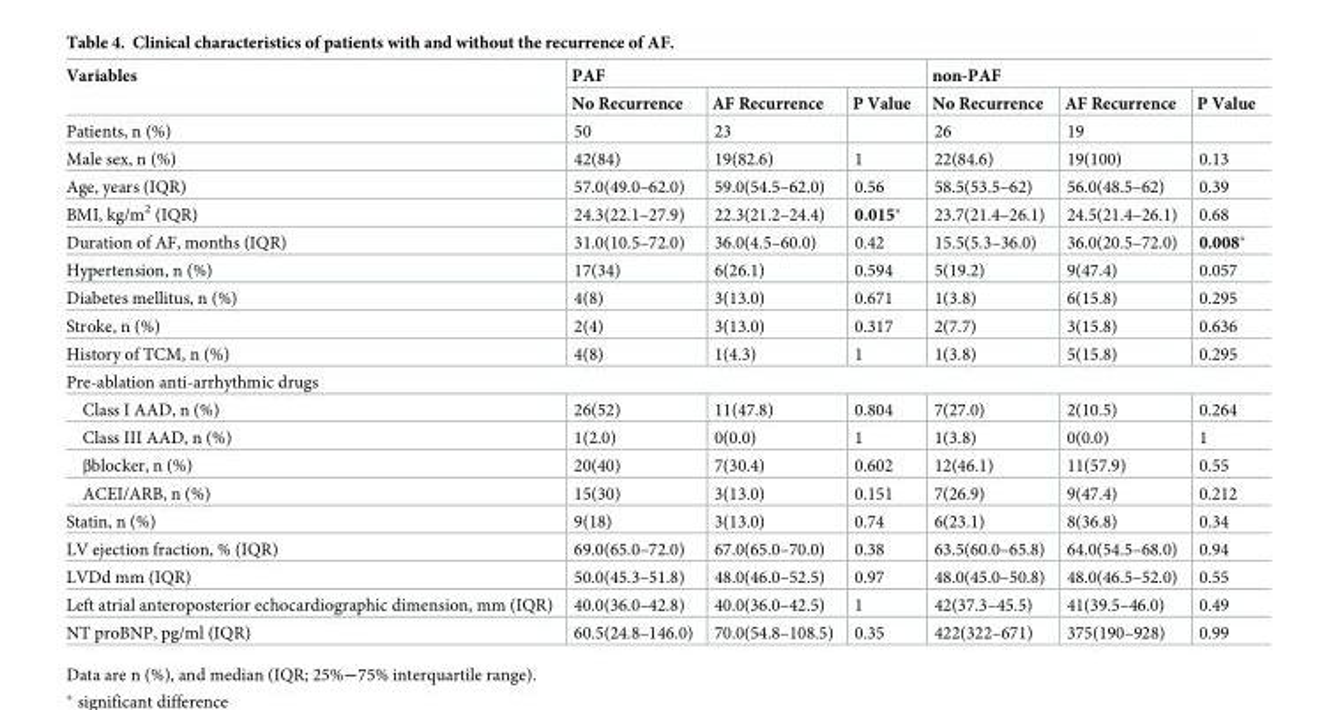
<table><thead><tr><td rowspan="2">Variables</td><td colspan="3">PAF</td><td colspan="3">non-PAF</td></tr><tr><td>No Recurrence</td><td>AF Recurrence</td><td>P Value</td><td>No Recurrence</td><td>AF Recurrence</td><td>P Value</td></tr></thead><tbody><tr><td>Patients, n (%)</td><td>50</td><td>23</td><td></td><td>26</td><td>19</td><td></td></tr><tr><td>Male sex, n (%)</td><td>42(84)</td><td>19(82.6)</td><td>1</td><td>22(84.6)</td><td>19(100)</td><td>0.13</td></tr><tr><td>Age, years (IQR)</td><td>57.0(49.0–62.0)</td><td>59.0(54.5–62.0)</td><td>0.56</td><td>58.5(53.5–62)</td><td>56.0(48.5–62)</td><td>0.39</td></tr><tr><td>BMI, kg/m<sup>2</sup> (IQR)</td><td>24.3(22.1–27.9)</td><td>22.3(21.2–24.4)</td><td>0.015*</td><td>23.7(21.4–26.1)</td><td>24.5(21.4–26.1)</td><td>0.68</td></tr><tr><td>Duration of AF, months (IQR)</td><td>31.0(10.5–72.0)</td><td>36.0(4.5–60.0)</td><td>0.42</td><td>15.5(5.3–36.0)</td><td>36.0(20.5–72.0)</td><td>0.008*</td></tr><tr><td>Hypertension, n (%)</td><td>17(34)</td><td>6(26.1)</td><td>0.594</td><td>5(19.2)</td><td>9(47.4)</td><td>0.057</td></tr><tr><td>Diabetes mellitus, n (%)</td><td>4(8)</td><td>3(13.0)</td><td>0.671</td><td>1(3.8)</td><td>6(15.8)</td><td>0.295</td></tr><tr><td>Stroke, n (%)</td><td>2(4)</td><td>3(13.0)</td><td>0.317</td><td>2(7.7)</td><td>3(15.8)</td><td>0.636</td></tr><tr><td>History of TCM, n (%)</td><td>4(8)</td><td>1(4.3)</td><td>1</td><td>1(3.8)</td><td>5(15.8)</td><td>0.295</td></tr><tr><td colspan="7">Pre-ablation anti-arrhythmic drugs</td></tr><tr><td>Class I AAD, n (%)</td><td>26(52)</td><td>11(47.8)</td><td>0.804</td><td>7(27.0)</td><td>2(10.5)</td><td>0.264</td></tr><tr><td>Class III AAD, n (%)</td><td>1(2.0)</td><td>0(0.0)</td><td>1</td><td>1(3.8)</td><td>0(0.0)</td><td>1</td></tr><tr><td>βblocker, n (%)</td><td>20(40)</td><td>7(30.4)</td><td>0.602</td><td>12(46.1)</td><td>11(57.9)</td><td>0.55</td></tr><tr><td>ACEI/ARB, n (%)</td><td>15(30)</td><td>3(13.0)</td><td>0.151</td><td>7(26.9)</td><td>9(47.4)</td><td>0.212</td></tr><tr><td>Statin, n (%)</td><td>9(18)</td><td>3(13.0)</td><td>0.74</td><td>6(23.1)</td><td>8(36.8)</td><td>0.34</td></tr><tr><td>LV ejection fraction, % (IQR)</td><td>69.0(65.0–72.0)</td><td>67.0(65.0–70.0)</td><td>0.38</td><td>63.5(60.0–65.8)</td><td>64.0(54.5–68.0)</td><td>0.94</td></tr><tr><td>LVDd mm (IQR)</td><td>50.0(45.3–51.8)</td><td>48.0(46.0–52.5)</td><td>0.97</td><td>48.0(45.0–50.8)</td><td>48.0(46.5–52.0)</td><td>0.55</td></tr><tr><td>Left atrial anteroposterior echocardiographic dimension, mm (IQR)</td><td>40.0(36.0–42.8)</td><td>40.0(36.0–42.5)</td><td>1</td><td>42(37.3–45.5)</td><td>41(39.5–46.0)</td><td>0.49</td></tr><tr><td>NT proBNP, pg/ml (IQR)</td><td>60.5(24.8–146.0)</td><td>70.0(54.8–108.5)</td><td>0.35</td><td>422(322–671)</td><td>375(190–928)</td><td>0.99</td></tr></tbody></table>